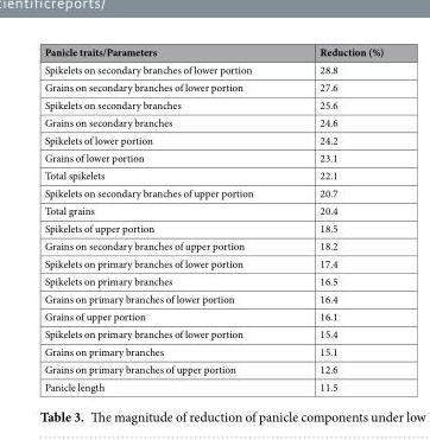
<table><thead><tr><td>Panicle traits/Parameters</td><td>Reduction (%)</td></tr></thead><tbody><tr><td>Spikelets on secondary branches of lower portion</td><td>28.8</td></tr><tr><td>Grains on secondary branches of lower portion</td><td>27.6</td></tr><tr><td>Spikelets on secondary branches</td><td>25.6</td></tr><tr><td>Grains on secondary branches</td><td>24.6</td></tr><tr><td>Spikelets of lower portion</td><td>24.2</td></tr><tr><td>Grains of lower portion</td><td>23.1</td></tr><tr><td>Total spikelets</td><td>22.1</td></tr><tr><td>Spikelets on secondary branches of upper portion</td><td>20.7</td></tr><tr><td>Total grains</td><td>20.4</td></tr><tr><td>Spikelets of upper portion</td><td>18.5</td></tr><tr><td>Grains on secondary branches of upper portion</td><td>18.2</td></tr><tr><td>Spikelets on primary branches of lower portion</td><td>17.4</td></tr><tr><td>Spikelets on primary branches</td><td>16.5</td></tr><tr><td>Grains on primary branches of lower portion</td><td>16.4</td></tr><tr><td>Grains of upper portion</td><td>16.1</td></tr><tr><td>Spikelets on primary branches of lower portion</td><td>15.4</td></tr><tr><td>Grains on primary branches</td><td>15.1</td></tr><tr><td>Grains on primary branches of upper portion</td><td>12.6</td></tr><tr><td>Panicle length</td><td>11.5</td></tr></tbody></table>